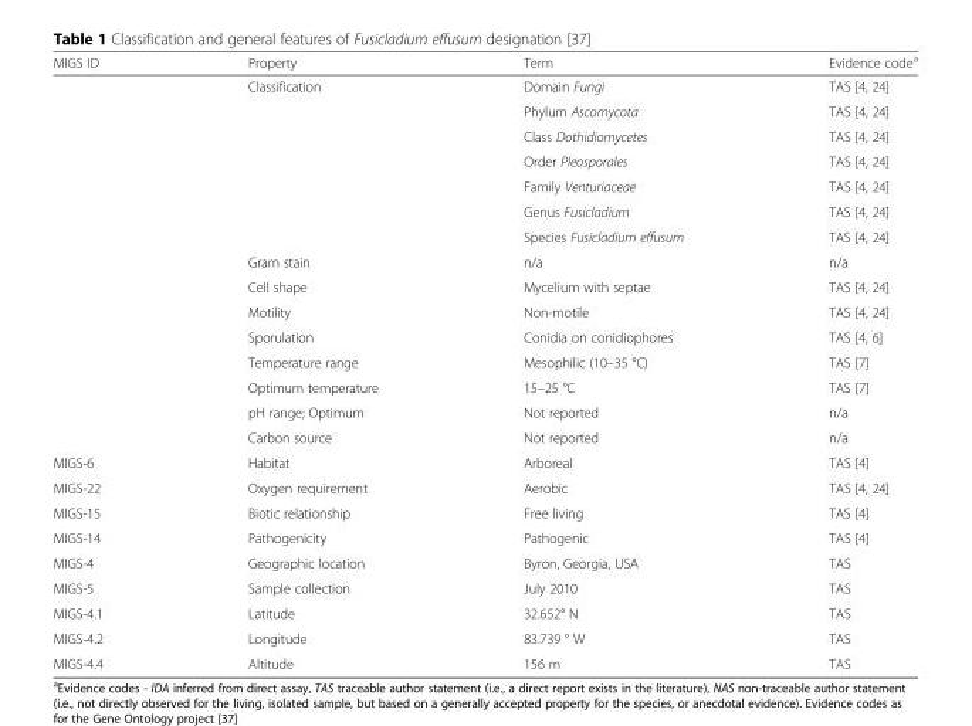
<table><thead><tr><td>MIGS ID</td><td>Property</td><td>Term</td><td>Evidence code<sup>a</sup></td></tr></thead><tbody><tr><td></td><td>Classification</td><td>Domain Fungi</td><td>TAS [4, 24]</td></tr><tr><td></td><td></td><td>Phylum Ascomycota</td><td>TAS [4, 24]</td></tr><tr><td></td><td></td><td>Class Dothidiomycetes</td><td>TAS [4, 24]</td></tr><tr><td></td><td></td><td>Order Pleosporales</td><td>TAS [4, 24]</td></tr><tr><td></td><td></td><td>Family Venturiaceae</td><td>TAS [4, 24]</td></tr><tr><td></td><td></td><td>Genus Fusicladium</td><td>TAS [4, 24]</td></tr><tr><td></td><td></td><td>Species Fusicladium effusum</td><td>TAS [4, 24]</td></tr><tr><td></td><td>Gram stain</td><td>n/a</td><td>n/a</td></tr><tr><td></td><td>Cell shape</td><td>Mycelium with septae</td><td>TAS [4, 24]</td></tr><tr><td></td><td>Motility</td><td>Non-motile</td><td>TAS [4, 24]</td></tr><tr><td></td><td>Sporulation</td><td>Conidia on conidiophores</td><td>TAS [4, 6]</td></tr><tr><td></td><td>Temperature range</td><td>Mesophilic (10–35 °C)</td><td>TAS [7]</td></tr><tr><td></td><td>Optimum temperature</td><td>15–25 °C</td><td>TAS [7]</td></tr><tr><td></td><td>pH range; Optimum</td><td>Not reported</td><td>n/a</td></tr><tr><td></td><td>Carbon source</td><td>Not reported</td><td>n/a</td></tr><tr><td>MIGS-6</td><td>Habitat</td><td>Arboreal</td><td>TAS [4]</td></tr><tr><td>MIGS-22</td><td>Oxygen requirement</td><td>Aerobic</td><td>TAS [4, 24]</td></tr><tr><td>MIGS-15</td><td>Biotic relationship</td><td>Free living</td><td>TAS [4]</td></tr><tr><td>MIGS-14</td><td>Pathogenicity</td><td>Pathogenic</td><td>TAS [4]</td></tr><tr><td>MIGS-4</td><td>Geographic location</td><td>Byron, Georgia, USA</td><td>TAS</td></tr><tr><td>MIGS-5</td><td>Sample collection</td><td>July 2010</td><td>TAS</td></tr><tr><td>MIGS-4.1</td><td>Latitude</td><td>32.652° N</td><td>TAS</td></tr><tr><td>MIGS-4.2</td><td>Longitude</td><td>83.739 ° W</td><td>TAS</td></tr><tr><td>MIGS-4.4</td><td>Altitude</td><td>156 m</td><td>TAS</td></tr></tbody></table>